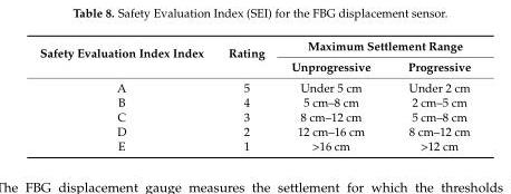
<table><thead><tr><td rowspan="2">Safety Evaluation Index Index</td><td rowspan="2">Rating</td><td colspan="2">Maximum Settlement Range</td></tr><tr><td>Unprogressive</td><td>Progressive</td></tr></thead><tbody><tr><td>A</td><td>5</td><td>Under 5 cm</td><td>Under 2 cm</td></tr><tr><td>B</td><td>4</td><td>5 cm–8 cm</td><td>2 cm–5 cm</td></tr><tr><td>C</td><td>3</td><td>8 cm–12 cm</td><td>5 cm–8 cm</td></tr><tr><td>D</td><td>2</td><td>12 cm–16 cm</td><td>8 cm–12 cm</td></tr><tr><td>E</td><td>1</td><td>&gt;16 cm</td><td>&gt;12 cm</td></tr></tbody></table>